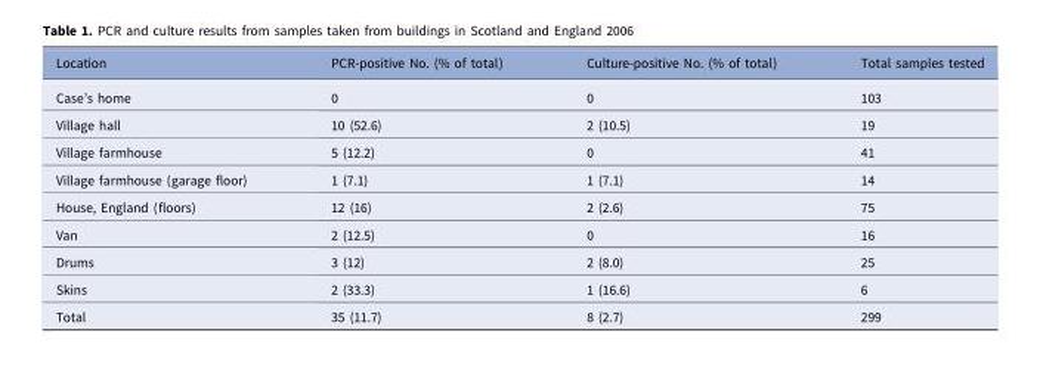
<table><thead><tr><td>Location</td><td>PCR-positive No. (% of total)</td><td>Culture-positive No. (% of total)</td><td>Total samples tested</td></tr></thead><tbody><tr><td>Case’s home</td><td>0</td><td>0</td><td>103</td></tr><tr><td>Village hall</td><td>10 (52.6)</td><td>2 (10.5)</td><td>19</td></tr><tr><td>Village farmhouse</td><td>5 (12.2)</td><td>0</td><td>41</td></tr><tr><td>Village farmhouse (garage floor)</td><td>1 (7.1)</td><td>1 (7.1)</td><td>14</td></tr><tr><td>House, England (floors)</td><td>12 (16)</td><td>2 (2.6)</td><td>75</td></tr><tr><td>Van</td><td>2 (12.5)</td><td>0</td><td>16</td></tr><tr><td>Drums</td><td>3 (12)</td><td>2 (8.0)</td><td>25</td></tr><tr><td>Skins</td><td>2 (33.3)</td><td>1 (16.6)</td><td>6</td></tr><tr><td>Total</td><td>35 (11.7)</td><td>8 (2.7)</td><td>299</td></tr></tbody></table>